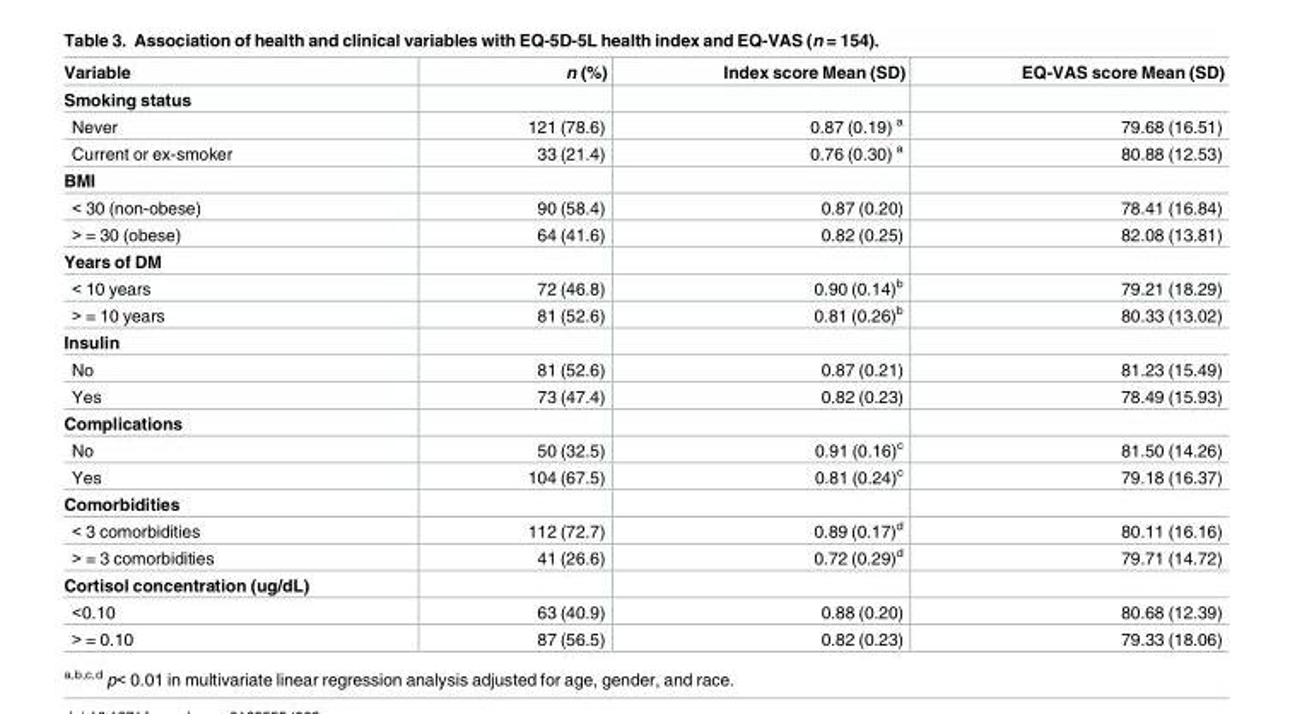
<table><thead><tr><td>Variable</td><td>n (%)</td><td>Index score Mean (SD)</td><td>EQ-VAS score Mean (SD)</td></tr></thead><tbody><tr><td colspan="4">Smoking status</td></tr><tr><td>Never</td><td>121 (78.6)</td><td>0.87 (0.19) <sup>a</sup></td><td>79.68 (16.51)</td></tr><tr><td>Current or ex-smoker</td><td>33 (21.4)</td><td>0.76 (0.30) <sup>a</sup></td><td>80.88 (12.53)</td></tr><tr><td colspan="4">BMI</td></tr><tr><td>&lt; 30 (non-obese)</td><td>90 (58.4)</td><td>0.87 (0.20)</td><td>78.41 (16.84)</td></tr><tr><td>&gt; = 30 (obese)</td><td>64 (41.6)</td><td>0.82 (0.25)</td><td>82.08 (13.81)</td></tr><tr><td colspan="4">Years of DM</td></tr><tr><td>&lt; 10 years</td><td>72 (46.8)</td><td>0.90 (0.14)<sup>b</sup></td><td>79.21 (18.29)</td></tr><tr><td>&gt; = 10 years</td><td>81 (52.6)</td><td>0.81 (0.26)<sup>b</sup></td><td>80.33 (13.02)</td></tr><tr><td colspan="4">Insulin</td></tr><tr><td>No</td><td>81 (52.6)</td><td>0.87 (0.21)</td><td>81.23 (15.49)</td></tr><tr><td>Yes</td><td>73 (47.4)</td><td>0.82 (0.23)</td><td>78.49 (15.93)</td></tr><tr><td colspan="4">Complications</td></tr><tr><td>No</td><td>50 (32.5)</td><td>0.91 (0.16)<sup>c</sup></td><td>81.50 (14.26)</td></tr><tr><td>Yes</td><td>104 (67.5)</td><td>0.81 (0.24)<sup>c</sup></td><td>79.18 (16.37)</td></tr><tr><td colspan="4">Comorbidities</td></tr><tr><td>&lt; 3 comorbidities</td><td>112 (72.7)</td><td>0.89 (0.17)<sup>d</sup></td><td>80.11 (16.16)</td></tr><tr><td>&gt; = 3 comorbidities</td><td>41 (26.6)</td><td>0.72 (0.29)<sup>d</sup></td><td>79.71 (14.72)</td></tr><tr><td colspan="4">Cortisol concentration (ug/dL)</td></tr><tr><td>&lt;0.10</td><td>63 (40.9)</td><td>0.88 (0.20)</td><td>80.68 (12.39)</td></tr><tr><td>&gt; = 0.10</td><td>87 (56.5)</td><td>0.82 (0.23)</td><td>79.33 (18.06)</td></tr></tbody></table>